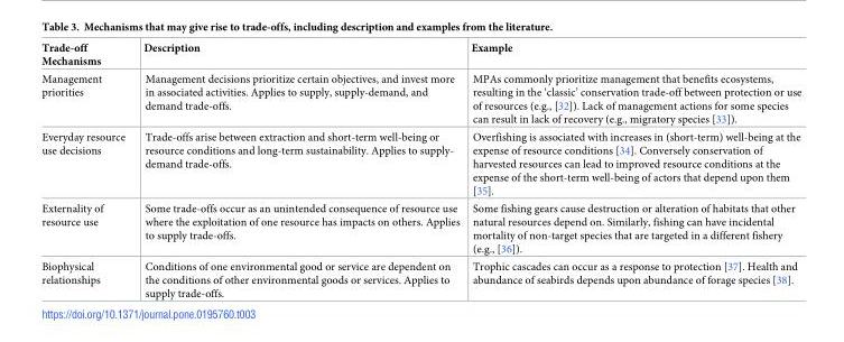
<table><thead><tr><td>Trade-off Mechanisms</td><td>Description</td><td>Example</td></tr></thead><tbody><tr><td>Management priorities</td><td>Management decisions prioritize certain objectives, and invest more in associated activities. Applies to supply, supply-demand, and demand trade-offs.</td><td>MPAs commonly prioritize management that benefits ecosystems, resulting in the ‘classic’ conservation trade-off between protection or use of resources (e.g., [32]). Lack of management actions for some species can result in lack of recovery (e.g., migratory species [33]).</td></tr><tr><td>Everyday resource use decisions</td><td>Trade-offs arise between extraction and short-term well-being or resource conditions and long-term sustainability. Applies to supply- demand trade-offs.</td><td>Overfishing is associated with increases in (short-term) well-being at the expense of resource conditions [34]. Conversely conservation of harvested resources can lead to improved resource conditions at the expense of the short-term well-being of actors that depend upon them [35].</td></tr><tr><td>Externality of resource use</td><td>Some trade-offs occur as an unintended consequence of resource use where the exploitation of one resource has impacts on others. Applies to supply trade-offs.</td><td>Some fishing gears cause destruction or alteration of habitats that other natural resources depend on. Similarly, fishing can have incidental mortality of non-target species that are targeted in a different fishery (e.g., [36]).</td></tr><tr><td>Biophysical relationships</td><td>Conditions of one environmental good or service are dependent on the conditions of other environmental goods or services. Applies to supply trade-offs.</td><td>Trophic cascades can occur as a response to protection [37]. Health and abundance of seabirds depends upon abundance of forage species [38].</td></tr></tbody></table>